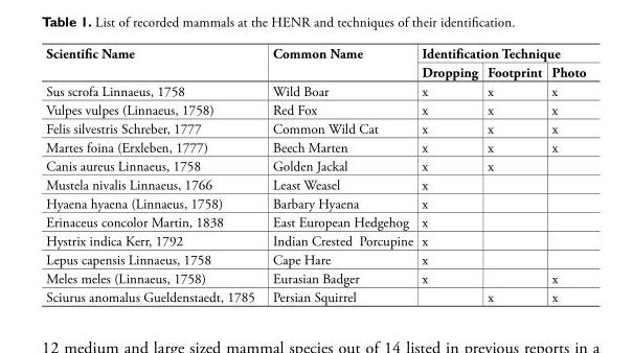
<table><thead><tr><td rowspan="2">Scientific Name</td><td rowspan="2">Common Name</td><td colspan="3">Identification Technique</td></tr><tr><td>Dropping</td><td>Footprint</td><td>Photo</td></tr></thead><tbody><tr><td>Sus scrofa Linnaeus, 1758</td><td>Wild Boar</td><td>x</td><td>x</td><td>x</td></tr><tr><td>Vulpes vulpes (Linnaeus, 1758)</td><td>Red Fox</td><td>x</td><td>x</td><td>x</td></tr><tr><td>Felis silvestris Schreber, 1777</td><td>Common Wild Cat</td><td>x</td><td>x</td><td>x</td></tr><tr><td>Martes foina (Erxleben, 1777)</td><td>Beech Marten</td><td>x</td><td>x</td><td>x</td></tr><tr><td>Canis aureus Linnaeus, 1758</td><td>Golden Jackal</td><td>x</td><td>x</td><td></td></tr><tr><td>Mustela nivalis Linnaeus, 1766</td><td>Least Weasel</td><td>x</td><td></td><td></td></tr><tr><td>Hyaena hyaena (Linnaeus, 1758)</td><td>Barbary Hyaena</td><td>x</td><td></td><td></td></tr><tr><td>Erinaceus concolor Martin, 1838</td><td>East European Hedgehog</td><td>x</td><td></td><td></td></tr><tr><td>Hystrix indica Kerr, 1792</td><td>Indian Crested Porcupine</td><td>x</td><td></td><td></td></tr><tr><td>Lepus capensis Linnaeus, 1758</td><td>Cape Hare</td><td>x</td><td></td><td></td></tr><tr><td>Meles meles (Linnaeus, 1758)</td><td>Eurasian Badger</td><td>x</td><td></td><td>x</td></tr><tr><td>Sciurus anomalus Gueldenstaedt, 1785</td><td>Persian Squirrel</td><td></td><td>x</td><td>x</td></tr></tbody></table>